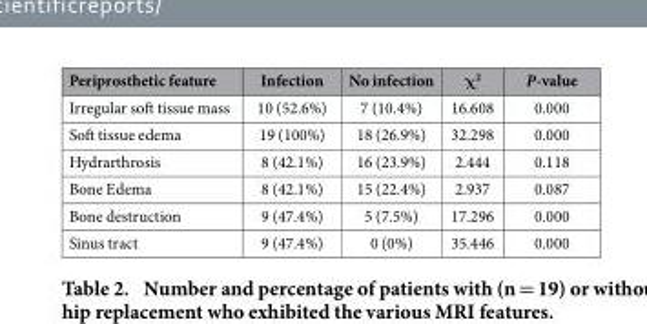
<table><thead><tr><td>Periprosthetic feature</td><td>Infection</td><td>No infection</td><td>χ<sup>2</sup></td><td>P-value</td></tr></thead><tbody><tr><td>Irregular soft tissue mass</td><td>10 (52.6%)</td><td>7 (10.4%)</td><td>16.608</td><td>0.000</td></tr><tr><td>Soft tissue edema</td><td>19 (100%)</td><td>18 (26.9%)</td><td>32.298</td><td>0.000</td></tr><tr><td>Hydrarthrosis</td><td>8 (42.1%)</td><td>16 (23.9%)</td><td>2.444</td><td>0.118</td></tr><tr><td>Bone Edema</td><td>8 (42.1%)</td><td>15 (22.4%)</td><td>2.937</td><td>0.087</td></tr><tr><td>Bone destruction</td><td>9 (47.4%)</td><td>5 (7.5%)</td><td>17.296</td><td>0.000</td></tr><tr><td>Sinus tract</td><td>9 (47.4%)</td><td>0 (0%)</td><td>35.446</td><td>0.000</td></tr></tbody></table>